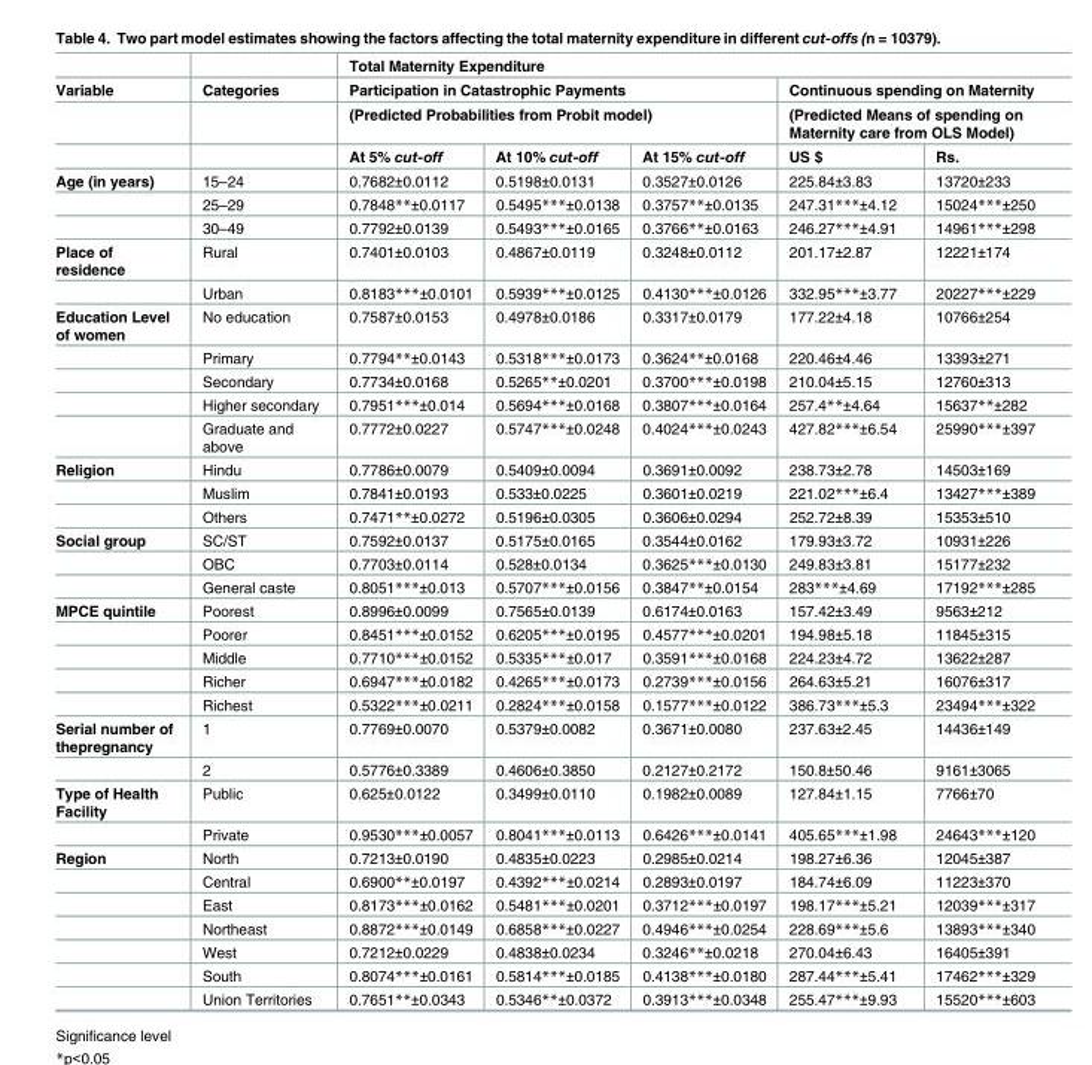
<table><thead><tr><td rowspan="4">Variable</td><td rowspan="4">Categories</td><td colspan="5">Total Maternity Expenditure</td></tr><tr><td rowspan="2" colspan="3">Participation in Catastrophic Payments (Predicted Probabilities from Probit model)</td><td rowspan="2" colspan="2">Continuous spending on Maternity (Predicted Means of spending on Maternity care from OLS Model)</td></tr><tr></tr><tr><td>At 5% cut-off</td><td>At 10% cut-off</td><td>At 15% cut-off</td><td>US $</td><td>Rs.</td></tr></thead><tbody><tr><td rowspan="3">Age (in years)</td><td>15–24</td><td>0.7682±0.0112</td><td>0.5198±0.0131</td><td>0.3527±0.0126</td><td>225.84±3.83</td><td>13720±233</td></tr><tr><td>25–29</td><td>0.7848**±0.0117</td><td>0.5495***±0.0138</td><td>0.3757**±0.0135</td><td>247.31***±4.12</td><td>15024***±250</td></tr><tr><td>30–49</td><td>0.7792±0.0139</td><td>0.5493***±0.0165</td><td>0.3766**±0.0163</td><td>246.27***±4.91</td><td>14961***±298</td></tr><tr><td rowspan="2">Place of residence</td><td>Rural</td><td>0.7401±0.0103</td><td>0.4867±0.0119</td><td>0.3248±0.0112</td><td>201.17±2.87</td><td>12221±174</td></tr><tr><td>Urban</td><td>0.8183***±0.0101</td><td>0.5939***±0.0125</td><td>0.4130***±0.0126</td><td>332.95***±3.77</td><td>20227***±229</td></tr><tr><td rowspan="5">Education Level of women</td><td>No education</td><td>0.7587±0.0153</td><td>0.4978±0.0186</td><td>0.3317±0.0179</td><td>177.22±4.18</td><td>10766±254</td></tr><tr><td>Primary</td><td>0.7794**±0.0143</td><td>0.5318***±0.0173</td><td>0.3624**±0.0168</td><td>220.46±4.46</td><td>13393±271</td></tr><tr><td>Secondary</td><td>0.7734±0.0168</td><td>0.5265**±0.0201</td><td>0.3700***±0.0198</td><td>210.04±5.15</td><td>12760±313</td></tr><tr><td>Higher secondary</td><td>0.7951***±0.014</td><td>0.5694***±0.0168</td><td>0.3807***±0.0164</td><td>257.4**±4.64</td><td>15637**±282</td></tr><tr><td>Graduate and above</td><td>0.7772±0.0227</td><td>0.5747***±0.0248</td><td>0.4024***±0.0243</td><td>427.82***±6.54</td><td>25990***±397</td></tr><tr><td rowspan="3">Religion</td><td>Hindu</td><td>0.7786±0.0079</td><td>0.5409±0.0094</td><td>0.3691±0.0092</td><td>238.73±2.78</td><td>14503±169</td></tr><tr><td>Muslim</td><td>0.7841±0.0193</td><td>0.533±0.0225</td><td>0.3601±0.0219</td><td>221.02***±6.4</td><td>13427***±389</td></tr><tr><td>Others</td><td>0.7471**±0.0272</td><td>0.5196±0.0305</td><td>0.3606±0.0294</td><td>252.72±8.39</td><td>15353±510</td></tr><tr><td rowspan="3">Social group</td><td>SC/ST</td><td>0.7592±0.0137</td><td>0.5175±0.0165</td><td>0.3544±0.0162</td><td>179.93±3.72</td><td>10931±226</td></tr><tr><td>OBC</td><td>0.7703±0.0114</td><td>0.528±0.0134</td><td>0.3625***±0.0130</td><td>249.83±3.81</td><td>15177±232</td></tr><tr><td>General caste</td><td>0.8051***±0.013</td><td>0.5707***±0.0156</td><td>0.3847**±0.0154</td><td>283***±4.69</td><td>17192***±285</td></tr><tr><td rowspan="5">MPCE quintile</td><td>Poorest</td><td>0.8996±0.0099</td><td>0.7565±0.0139</td><td>0.6174±0.0163</td><td>157.42±3.49</td><td>9563±212</td></tr><tr><td>Poorer</td><td>0.8451***±0.0152</td><td>0.6205***±0.0195</td><td>0.4577***±0.0201</td><td>194.98±5.18</td><td>11845±315</td></tr><tr><td>Middle</td><td>0.7710***±0.0152</td><td>0.5335***±0.017</td><td>0.3591***±0.0168</td><td>224.23±4.72</td><td>13622±287</td></tr><tr><td>Richer</td><td>0.6947***±0.0182</td><td>0.4265***±0.0173</td><td>0.2739***±0.0156</td><td>264.63±5.21</td><td>16076±317</td></tr><tr><td>Richest</td><td>0.5322***±0.0211</td><td>0.2824***±0.0158</td><td>0.1577***±0.0122</td><td>386.73***±5.3</td><td>23494***±322</td></tr><tr><td rowspan="2">Serial number of thepregnancy</td><td>1</td><td>0.7769±0.0070</td><td>0.5379±0.0082</td><td>0.3671±0.0080</td><td>237.63±2.45</td><td>14436±149</td></tr><tr><td>2</td><td>0.5776±0.3389</td><td>0.4606±0.3850</td><td>0.2127±0.2172</td><td>150.8±50.46</td><td>9161±3065</td></tr><tr><td rowspan="2">Type of Health Facility</td><td>Public</td><td>0.625±0.0122</td><td>0.3499±0.0110</td><td>0.1982±0.0089</td><td>127.84±1.15</td><td>7766±70</td></tr><tr><td>Private</td><td>0.9530***±0.0057</td><td>0.8041***±0.0113</td><td>0.6426***±0.0141</td><td>405.65***±1.98</td><td>24643***±120</td></tr><tr><td rowspan="7">Region</td><td>North</td><td>0.7213±0.0190</td><td>0.4835±0.0223</td><td>0.2985±0.0214</td><td>198.27±6.36</td><td>12045±387</td></tr><tr><td>Central</td><td>0.6900**±0.0197</td><td>0.4392***±0.0214</td><td>0.2893±0.0197</td><td>184.74±6.09</td><td>11223±370</td></tr><tr><td>East</td><td>0.8173***±0.0162</td><td>0.5481***±0.0201</td><td>0.3712***±0.0197</td><td>198.17***±5.21</td><td>12039***±317</td></tr><tr><td>Northeast</td><td>0.8872***±0.0149</td><td>0.6858***±0.0227</td><td>0.4946***±0.0254</td><td>228.69***±5.6</td><td>13893***±340</td></tr><tr><td>West</td><td>0.7212±0.0229</td><td>0.4838±0.0234</td><td>0.3246**±0.0218</td><td>270.04±6.43</td><td>16405±391</td></tr><tr><td>South</td><td>0.8074***±0.0161</td><td>0.5814***±0.0185</td><td>0.4138***±0.0180</td><td>287.44***±5.41</td><td>17462***±329</td></tr><tr><td>Union Territories</td><td>0.7651**±0.0343</td><td>0.5346**±0.0372</td><td>0.3913***±0.0348</td><td>255.47***±9.93</td><td>15520***±603</td></tr></tbody></table>